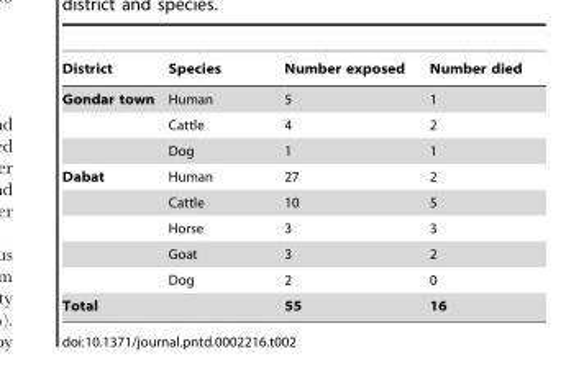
<table><thead><tr><td>District</td><td>Species</td><td>Number exposed</td><td>Number died</td></tr></thead><tbody><tr><td rowspan="3">Gondar town</td><td>Human</td><td>5</td><td>1</td></tr><tr><td>Cattle</td><td>4</td><td>2</td></tr><tr><td>Dog</td><td>1</td><td>1</td></tr><tr><td rowspan="5">Dabat</td><td>Human</td><td>27</td><td>2</td></tr><tr><td>Cattle</td><td>10</td><td>5</td></tr><tr><td>Horse</td><td>3</td><td>3</td></tr><tr><td>Goat</td><td>3</td><td>2</td></tr><tr><td>Dog</td><td>2</td><td>0</td></tr><tr><td>Total</td><td></td><td>55</td><td>16</td></tr></tbody></table>